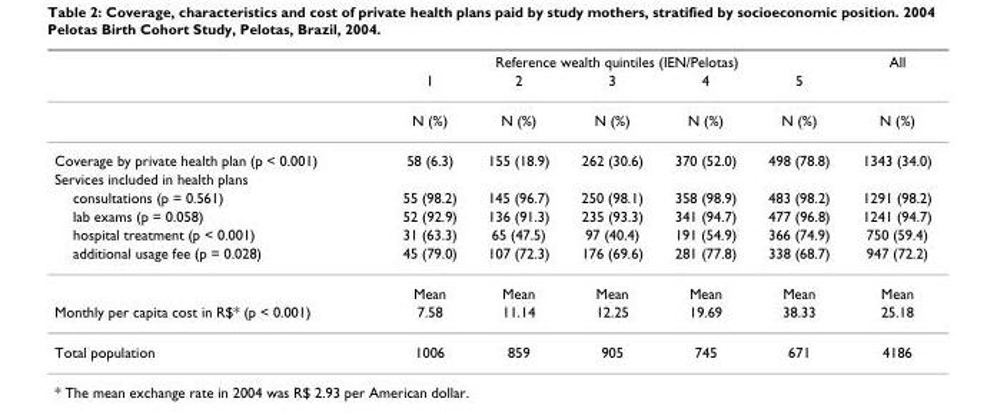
<table><thead><tr><td rowspan="2"></td><td colspan="5">Reference wealth quintiles (IEN/Pelotas)</td><td rowspan="2">All</td></tr><tr><td>1</td><td>2</td><td>3</td><td>4</td><td>5</td></tr></thead><tbody><tr><td></td><td>N (%)</td><td>N (%)</td><td>N (%)</td><td>N (%)</td><td>N (%)</td><td>N (%)</td></tr><tr><td>Coverage by private health plan (p &lt; 0.001)</td><td>58 (6.3)</td><td>155 (18.9)</td><td>262 (30.6)</td><td>370 (52.0)</td><td>498 (78.8)</td><td>1343 (34.0)</td></tr><tr><td colspan="7">Services included in health plans</td></tr><tr><td>consultations (p = 0.561)</td><td>55 (98.2)</td><td>145 (96.7)</td><td>250 (98.1)</td><td>358 (98.9)</td><td>483 (98.2)</td><td>1291 (98.2)</td></tr><tr><td>lab exams (p = 0.058)</td><td>52 (92.9)</td><td>136 (91.3)</td><td>235 (93.3)</td><td>341 (94.7)</td><td>477 (96.8)</td><td>1241 (94.7)</td></tr><tr><td>hospital treatment (p &lt; 0.001)</td><td>31 (63.3)</td><td>65 (47.5)</td><td>97 (40.4)</td><td>191 (54.9)</td><td>366 (74.9)</td><td>750 (59.4)</td></tr><tr><td rowspan="2">additional usage fee (p = 0.028)</td><td>45 (79.0)</td><td>107 (72.3)</td><td>176 (69.6)</td><td>281 (77.8)</td><td>338 (68.7)</td><td>947 (72.2)</td></tr><tr><td>Mean</td><td>Mean</td><td>Mean</td><td>Mean</td><td>Mean</td><td>Mean</td></tr><tr><td>Monthly per capita cost in R$* (p &lt; 0.001)</td><td>7.58</td><td>11.14</td><td>12.25</td><td>19.69</td><td>38.33</td><td>25.18</td></tr><tr><td>Total population</td><td>1006</td><td>859</td><td>905</td><td>745</td><td>671</td><td>4186</td></tr></tbody></table>